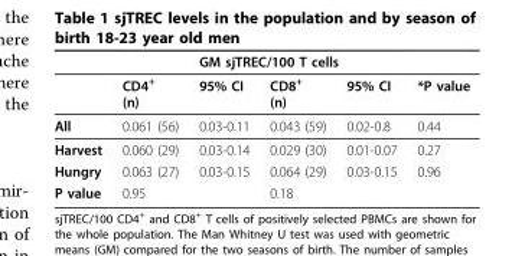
<table><thead><tr><td rowspan="2"></td><td rowspan="2">CD4<sup>+</sup> (n)</td><td colspan="3">GM sjTREC/100 T cells</td><td rowspan="2">*P value</td></tr><tr><td>95% CI</td><td>CD8<sup>+</sup> (n)</td><td>95% CI</td></tr></thead><tbody><tr><td>All</td><td>0.061 (56)</td><td>0.03-0.11</td><td>0.043 (59)</td><td>0.02-0.8</td><td>0.44</td></tr><tr><td>Harvest</td><td>0.060 (29)</td><td>0.03-0.14</td><td>0.029 (30)</td><td>0.01-0.07</td><td>0.27</td></tr><tr><td>Hungry</td><td>0.063 (27)</td><td>0.03-0.15</td><td>0.064 (29)</td><td>0.03-0.15</td><td>0.96</td></tr><tr><td>P value</td><td>0.95</td><td></td><td>0.18</td><td></td><td></td></tr></tbody></table>